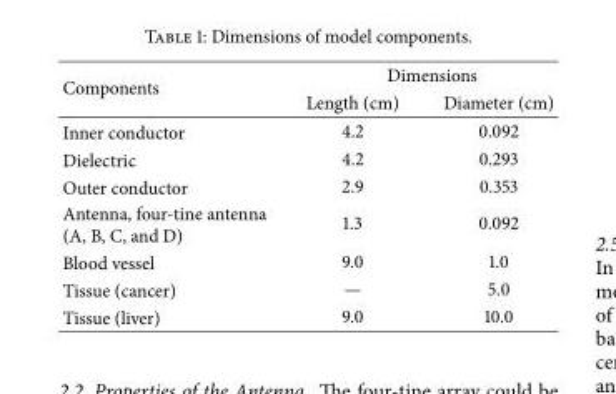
<table><thead><tr><td rowspan="2">Components</td><td colspan="2">Dimensions</td></tr><tr><td>Length (cm)</td><td>Diameter (cm)</td></tr></thead><tbody><tr><td>Inner conductor</td><td>4.2</td><td>0.092</td></tr><tr><td>Dielectric</td><td>4.2</td><td>0.293</td></tr><tr><td>Outer conductor</td><td>2.9</td><td>0.353</td></tr><tr><td>Antenna, four-tine antenna (A, B, C, and D)</td><td>1.3</td><td>0.092</td></tr><tr><td>Blood vessel</td><td>9.0</td><td>1.0</td></tr><tr><td>Tissue (cancer)</td><td>—</td><td>5.0</td></tr><tr><td>Tissue (liver)</td><td>9.0</td><td>10.0</td></tr></tbody></table>